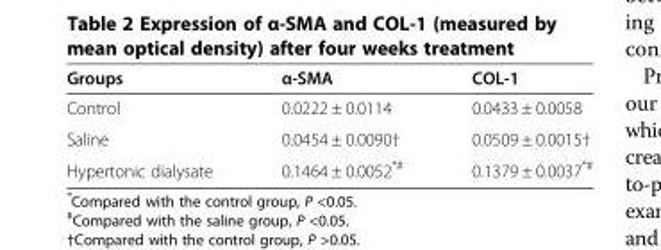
<table><thead><tr><td>Groups</td><td>α-SMA</td><td>COL-1</td></tr></thead><tbody><tr><td>Control</td><td>0.0222 ± 0.0114</td><td>0.0433 ± 0.0058</td></tr><tr><td>Saline</td><td>0.0454 ± 0.0090†</td><td>0.0509 ± 0.0015†</td></tr><tr><td>Hypertonic dialysate</td><td>0.1464 ± 0.0052<sup>*#</sup></td><td>0.1379 ± 0.0037<sup>*#</sup></td></tr></tbody></table>